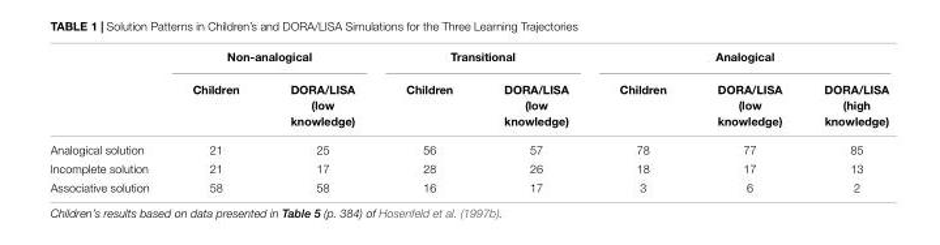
<table><thead><tr><td rowspan="2"></td><td colspan="2">Non-analogical</td><td colspan="2">Transitional</td><td colspan="3">Analogical</td></tr><tr><td>Children</td><td>DORA/LISA (low knowledge)</td><td>Children</td><td>DORA/LISA (low knowledge)</td><td>Children</td><td>DORA/LISA (low knowledge)</td><td>DORA/LISA (high knowledge)</td></tr></thead><tbody><tr><td>Analogical solution</td><td>21</td><td>25</td><td>56</td><td>57</td><td>78</td><td>77</td><td>85</td></tr><tr><td>Incomplete solution</td><td>21</td><td>17</td><td>28</td><td>26</td><td>18</td><td>17</td><td>13</td></tr><tr><td>Associative solution</td><td>58</td><td>58</td><td>16</td><td>17</td><td>3</td><td>6</td><td>2</td></tr></tbody></table>